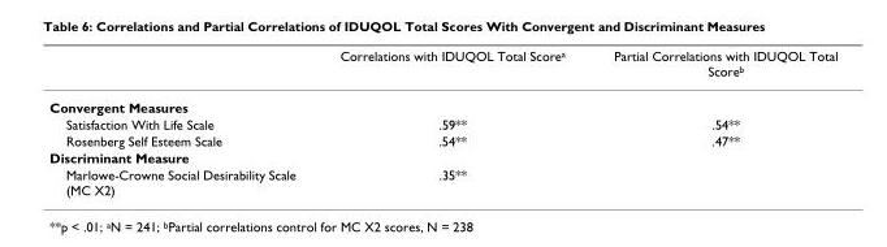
<table><thead><tr><td></td><td>Correlations with IDUQOL Total Score<sup>a</sup></td><td>Partial Correlations with IDUQOL Total Score<sup>b</sup></td></tr></thead><tbody><tr><td colspan="3">Convergent Measures</td></tr><tr><td>Satisfaction With Life Scale</td><td>.59**</td><td>.54**</td></tr><tr><td>Rosenberg Self Esteem Scale</td><td>.54**</td><td>.47**</td></tr><tr><td colspan="3">Discriminant Measure</td></tr><tr><td>Marlowe-Crowne Social Desirability Scale (MC X2)</td><td>.35**</td><td></td></tr></tbody></table>